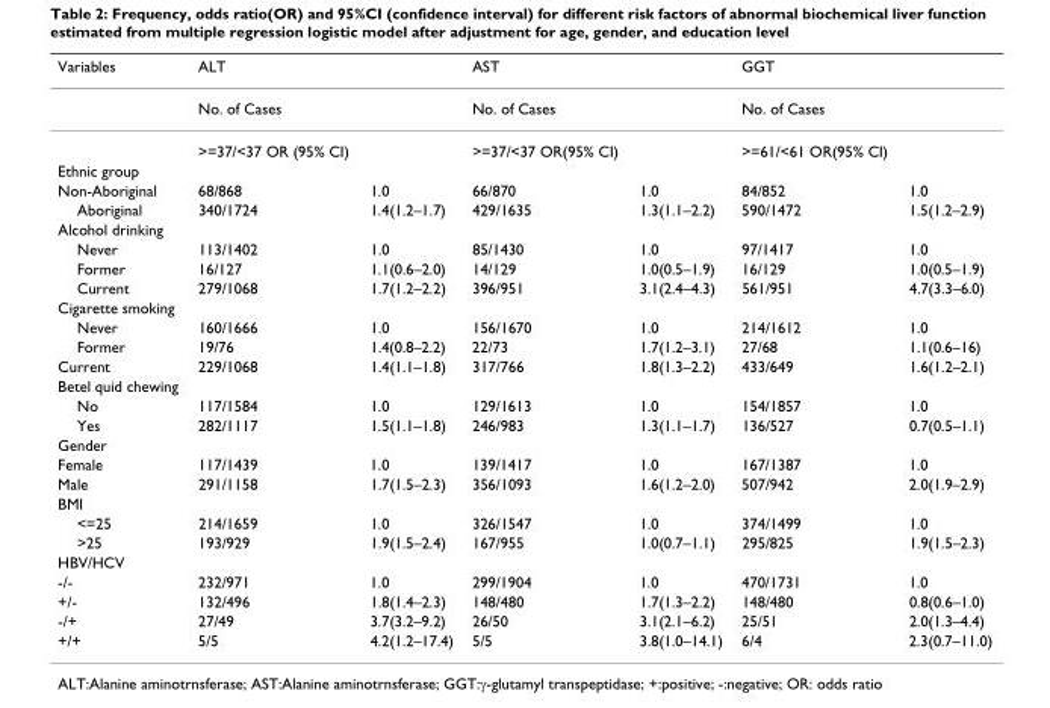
<table><thead><tr><td>Variables</td><td>ALT</td><td></td><td>AST</td><td></td><td>GGT</td><td></td></tr></thead><tbody><tr><td></td><td>No. of Cases</td><td></td><td>No. of Cases</td><td></td><td>No. of Cases</td><td></td></tr><tr><td></td><td>&gt;=37/&lt;37 OR (95% CI)</td><td></td><td>&gt;=37/&lt;37 OR(95% CI)</td><td></td><td>&gt;=61/&lt;61 OR(95% CI)</td><td></td></tr><tr><td colspan="7">Ethnic group</td></tr><tr><td>Non-Aboriginal</td><td>68/868</td><td>1.0</td><td>66/870</td><td>1.0</td><td>84/852</td><td>1.0</td></tr><tr><td>Aboriginal</td><td>340/1724</td><td>1.4(1.2–1.7)</td><td>429/1635</td><td>1.3(1.1–2.2)</td><td>590/1472</td><td>1.5(1.2–2.9)</td></tr><tr><td colspan="7">Alcohol drinking</td></tr><tr><td>Never</td><td>113/1402</td><td>1.0</td><td>85/1430</td><td>1.0</td><td>97/1417</td><td>1.0</td></tr><tr><td>Former</td><td>16/127</td><td>1.1(0.6–2.0)</td><td>14/129</td><td>1.0(0.5–1.9)</td><td>16/129</td><td>1.0(0.5–1.9)</td></tr><tr><td>Current</td><td>279/1068</td><td>1.7(1.2–2.2)</td><td>396/951</td><td>3.1(2.4–4.3)</td><td>561/951</td><td>4.7(3.3–6.0)</td></tr><tr><td colspan="7">Cigarette smoking</td></tr><tr><td>Never</td><td>160/1666</td><td>1.0</td><td>156/1670</td><td>1.0</td><td>214/1612</td><td>1.0</td></tr><tr><td>Former</td><td>19/76</td><td>1.4(0.8–2.2)</td><td>22/73</td><td>1.7(1.2–3.1)</td><td>27/68</td><td>1.1(0.6–16)</td></tr><tr><td>Current</td><td>229/1068</td><td>1.4(1.1–1.8)</td><td>317/766</td><td>1.8(1.3–2.2)</td><td>433/649</td><td>1.6(1.2–2.1)</td></tr><tr><td colspan="7">Betel quid chewing</td></tr><tr><td>No</td><td>117/1584</td><td>1.0</td><td>129/1613</td><td>1.0</td><td>154/1857</td><td>1.0</td></tr><tr><td>Yes</td><td>282/1117</td><td>1.5(1.1–1.8)</td><td>246/983</td><td>1.3(1.1–1.7)</td><td>136/527</td><td>0.7(0.5–1.1)</td></tr><tr><td colspan="7">Gender</td></tr><tr><td>Female</td><td>117/1439</td><td>1.0</td><td>139/1417</td><td>1.0</td><td>167/1387</td><td>1.0</td></tr><tr><td>Male</td><td>291/1158</td><td>1.7(1.5–2.3)</td><td>356/1093</td><td>1.6(1.2–2.0)</td><td>507/942</td><td>2.0(1.9–2.9)</td></tr><tr><td colspan="7">BMI</td></tr><tr><td>&lt;=25</td><td>214/1659</td><td>1.0</td><td>326/1547</td><td>1.0</td><td>374/1499</td><td>1.0</td></tr><tr><td>&gt;25</td><td>193/929</td><td>1.9(1.5–2.4)</td><td>167/955</td><td>1.0(0.7–1.1)</td><td>295/825</td><td>1.9(1.5–2.3)</td></tr><tr><td colspan="7">HBV/HCV</td></tr><tr><td>-/-</td><td>232/971</td><td>1.0</td><td>299/1904</td><td>1.0</td><td>470/1731</td><td>1.0</td></tr><tr><td>+/-</td><td>132/496</td><td>1.8(1.4–2.3)</td><td>148/480</td><td>1.7(1.3–2.2)</td><td>148/480</td><td>0.8(0.6–1.0)</td></tr><tr><td>-/+</td><td>27/49</td><td>3.7(3.2–9.2)</td><td>26/50</td><td>3.1(2.1–6.2)</td><td>25/51</td><td>2.0(1.3–4.4)</td></tr><tr><td>+/+</td><td>5/5</td><td>4.2(1.2–17.4)</td><td>5/5</td><td>3.8(1.0–14.1)</td><td>6/4</td><td>2.3(0.7–11.0)</td></tr></tbody></table>